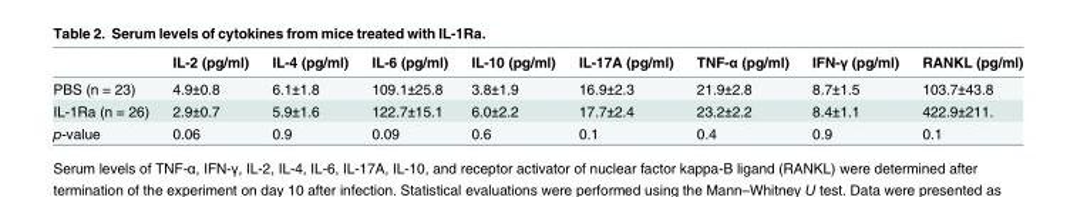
<table><thead><tr><td></td><td>IL-2 (pg/ml)</td><td>IL-4 (pg/ml)</td><td>IL-6 (pg/ml)</td><td>IL-10 (pg/ml)</td><td>IL-17A (pg/ml)</td><td>TNF-α (pg/ml)</td><td>IFN-γ (pg/ml)</td><td>RANKL (pg/ml)</td></tr></thead><tbody><tr><td>PBS (n = 23)</td><td>4.9±0.8</td><td>6.1±1.8</td><td>109.1±25.8</td><td>3.8±1.9</td><td>16.9±2.3</td><td>21.9±2.8</td><td>8.7±1.5</td><td>103.7±43.8</td></tr><tr><td>IL-1Ra (n = 26)</td><td>2.9±0.7</td><td>5.9±1.6</td><td>122.7±15.1</td><td>6.0±2.2</td><td>17.7±2.4</td><td>23.2±2.2</td><td>8.4±1.1</td><td>422.9±211.</td></tr><tr><td>p-value</td><td>0.06</td><td>0.9</td><td>0.09</td><td>0.6</td><td>0.1</td><td>0.4</td><td>0.9</td><td>0.1</td></tr></tbody></table>